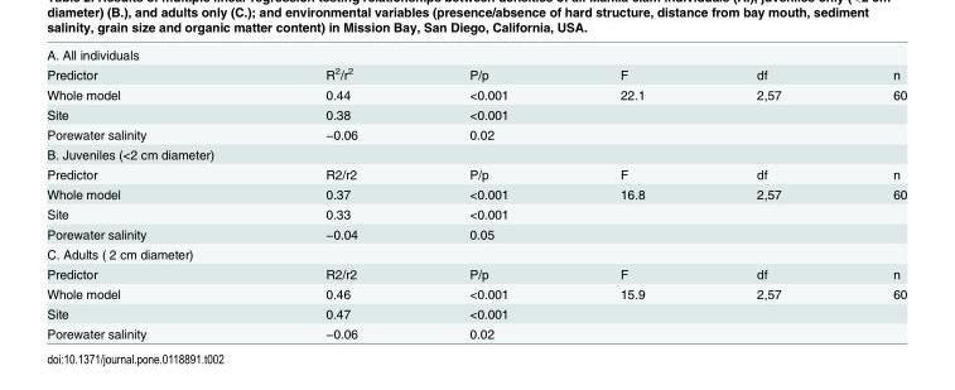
<table><tbody><tr><td colspan="6">A. All individuals</td></tr><tr><td>Predictor</td><td>R<sup>2</sup>/r<sup>2</sup></td><td>P/p</td><td>F</td><td>df</td><td>n</td></tr><tr><td>Whole model</td><td>0.44</td><td>&lt;0.001</td><td>22.1</td><td>2,57</td><td>60</td></tr><tr><td>Site</td><td>0.38</td><td>&lt;0.001</td><td></td><td></td><td></td></tr><tr><td>Porewater salinity</td><td>−0.06</td><td>0.02</td><td></td><td></td><td></td></tr><tr><td colspan="6">B. Juveniles (&lt;2 cm diameter)</td></tr><tr><td>Predictor</td><td>R2/r2</td><td>P/p</td><td>F</td><td>df</td><td>n</td></tr><tr><td>Whole model</td><td>0.37</td><td>&lt;0.001</td><td>16.8</td><td>2,57</td><td>60</td></tr><tr><td>Site</td><td>0.33</td><td>&lt;0.001</td><td></td><td></td><td></td></tr><tr><td>Porewater salinity</td><td>−0.04</td><td>0.05</td><td></td><td></td><td></td></tr><tr><td colspan="6">C. Adults (≥2 cm diameter)</td></tr><tr><td>Predictor</td><td>R2/r2</td><td>P/p</td><td>F</td><td>df</td><td>n</td></tr><tr><td>Whole model</td><td>0.46</td><td>&lt;0.001</td><td>15.9</td><td>2,57</td><td>60</td></tr><tr><td>Site</td><td>0.47</td><td>&lt;0.001</td><td></td><td></td><td></td></tr><tr><td>Porewater salinity</td><td>−0.06</td><td>0.02</td><td></td><td></td><td></td></tr></tbody></table>